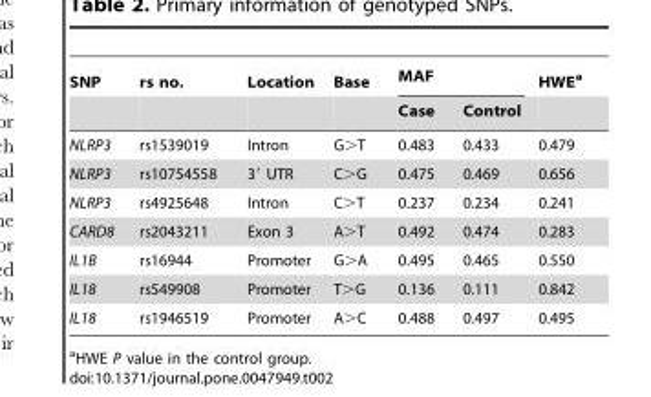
<table><thead><tr><td rowspan="2">SNP</td><td rowspan="2">rs no.</td><td rowspan="2">Location</td><td rowspan="2">Base</td><td colspan="2">MAF</td><td rowspan="2">HWE<sup>a</sup></td></tr><tr><td>Case</td><td>Control</td></tr></thead><tbody><tr><td>NLRP3</td><td>rs1539019</td><td>Intron</td><td>G&gt;T</td><td>0.483</td><td>0.433</td><td>0.479</td></tr><tr><td>NLRP3</td><td>rs10754558</td><td>3′ UTR</td><td>C&gt;G</td><td>0.475</td><td>0.469</td><td>0.656</td></tr><tr><td>NLRP3</td><td>rs4925648</td><td>Intron</td><td>C&gt;T</td><td>0.237</td><td>0.234</td><td>0.241</td></tr><tr><td>CARD8</td><td>rs2043211</td><td>Exon 3</td><td>A&gt;T</td><td>0.492</td><td>0.474</td><td>0.283</td></tr><tr><td>IL1B</td><td>rs16944</td><td>Promoter</td><td>G&gt;A</td><td>0.495</td><td>0.465</td><td>0.550</td></tr><tr><td>IL18</td><td>rs549908</td><td>Promoter</td><td>T&gt;G</td><td>0.136</td><td>0.111</td><td>0.842</td></tr><tr><td>IL18</td><td>rs1946519</td><td>Promoter</td><td>A&gt;C</td><td>0.488</td><td>0.497</td><td>0.495</td></tr></tbody></table>